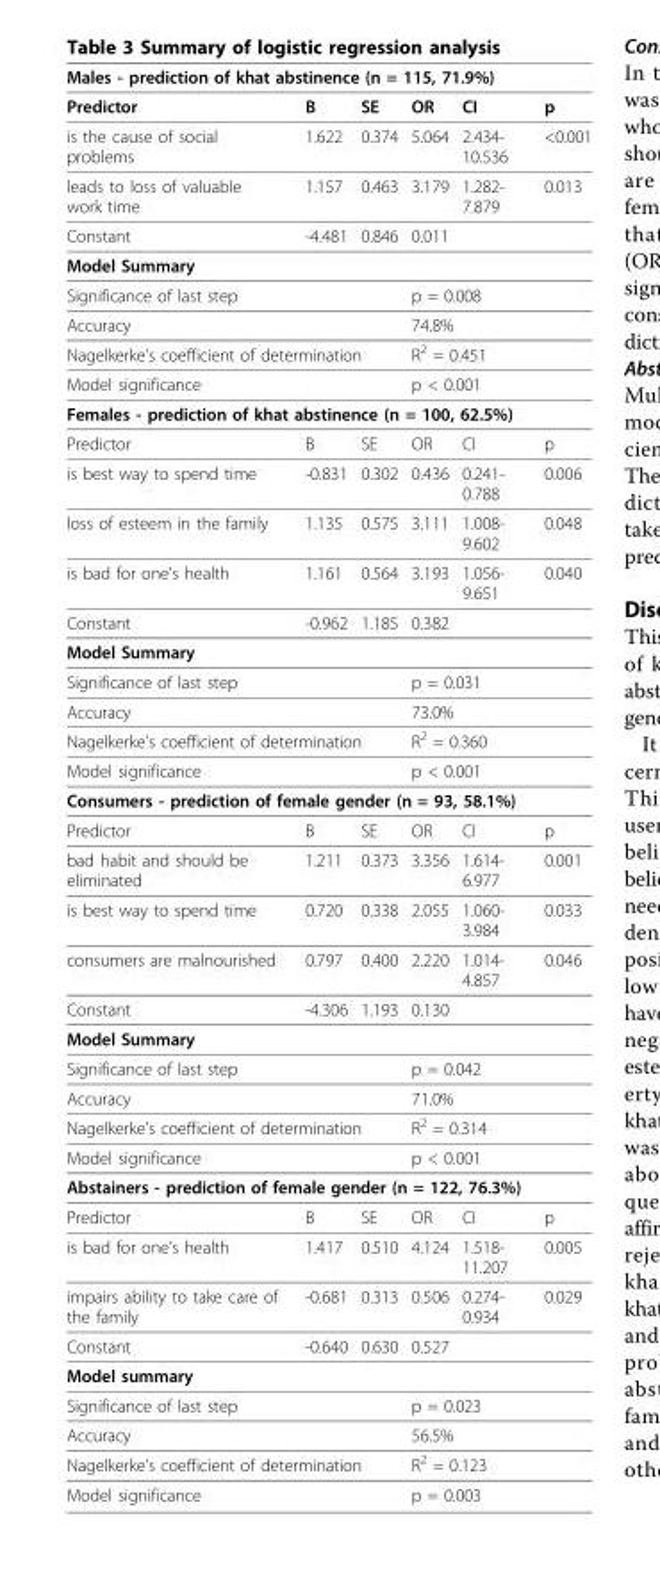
<table><thead><tr><td colspan="6">Males - prediction of khat abstinence (n = 115, 71.9%)</td></tr><tr><td>Predictor</td><td>B</td><td>SE</td><td>OR</td><td>CI</td><td>p</td></tr></thead><tbody><tr><td>is the cause of social problems</td><td>1.622</td><td>0.374</td><td>5.064</td><td>2.434- 10.536</td><td>&lt;0.001</td></tr><tr><td>leads to loss of valuable work time</td><td>1.157</td><td>0.463</td><td>3.179</td><td>1.282- 7.879</td><td>0.013</td></tr><tr><td>Constant</td><td>-4.481</td><td>0.846</td><td>0.011</td><td></td><td></td></tr><tr><td colspan="6">Model Summary</td></tr><tr><td colspan="3">Significance of last step</td><td colspan="3">p = 0.008</td></tr><tr><td colspan="3">Accuracy</td><td colspan="3">74.8%</td></tr><tr><td colspan="3">Nagelkerke’s coefficient of determination</td><td colspan="3">R<sup>2</sup> = 0.451</td></tr><tr><td colspan="3">Model significance</td><td colspan="3">p &lt; 0.001</td></tr><tr><td colspan="6">Females - prediction of khat abstinence (n = 100, 62.5%)</td></tr><tr><td>Predictor</td><td>B</td><td>SE</td><td>OR</td><td>CI</td><td>p</td></tr><tr><td>is best way to spend time</td><td>-0.831</td><td>0.302</td><td>0.436</td><td>0.241- 0.788</td><td>0.006</td></tr><tr><td>loss of esteem in the family</td><td>1.135</td><td>0.575</td><td>3.111</td><td>1.008- 9.602</td><td>0.048</td></tr><tr><td>is bad for one’s health</td><td>1.161</td><td>0.564</td><td>3.193</td><td>1.056- 9.651</td><td>0.040</td></tr><tr><td>Constant</td><td>-0.962</td><td>1.185</td><td>0.382</td><td></td><td></td></tr><tr><td colspan="6">Model Summary</td></tr><tr><td colspan="3">Significance of last step</td><td colspan="3">p = 0.031</td></tr><tr><td colspan="3">Accuracy</td><td colspan="3">73.0%</td></tr><tr><td colspan="3">Nagelkerke’s coefficient of determination</td><td colspan="3">R<sup>2</sup> = 0.360</td></tr><tr><td colspan="3">Model significance</td><td colspan="3">p &lt; 0.001</td></tr><tr><td colspan="6">Consumers - prediction of female gender (n = 93, 58.1%)</td></tr><tr><td>Predictor</td><td>B</td><td>SE</td><td>OR</td><td>CI</td><td>p</td></tr><tr><td>bad habit and should be eliminated</td><td>1.211</td><td>0.373</td><td>3.356</td><td>1.614- 6.977</td><td>0.001</td></tr><tr><td>is best way to spend time</td><td>0.720</td><td>0.338</td><td>2.055</td><td>1.060- 3.984</td><td>0.033</td></tr><tr><td>consumers are malnourished</td><td>0.797</td><td>0.400</td><td>2.220</td><td>1.014- 4.857</td><td>0.046</td></tr><tr><td>Constant</td><td>-4.306</td><td>1.193</td><td>0.130</td><td></td><td></td></tr><tr><td colspan="6">Model Summary</td></tr><tr><td colspan="3">Significance of last step</td><td colspan="3">p = 0.042</td></tr><tr><td colspan="3">Accuracy</td><td colspan="3">71.0%</td></tr><tr><td colspan="3">Nagelkerke’s coefficient of determination</td><td colspan="3">R<sup>2</sup> = 0.314</td></tr><tr><td colspan="3">Model significance</td><td colspan="3">p &lt; 0.001</td></tr><tr><td colspan="6">Abstainers - prediction of female gender (n = 122, 76.3%)</td></tr><tr><td>Predictor</td><td>B</td><td>SE</td><td>OR</td><td>CI</td><td>p</td></tr><tr><td>is bad for one’s health</td><td>1.417</td><td>0.510</td><td>4.124</td><td>1.518- 11.207</td><td>0.005</td></tr><tr><td>impairs ability to take care of the family</td><td>-0.681</td><td>0.313</td><td>0.506</td><td>0.274- 0.934</td><td>0.029</td></tr><tr><td>Constant</td><td>-0.640</td><td>0.630</td><td>0.527</td><td></td><td></td></tr><tr><td colspan="6">Model summary</td></tr><tr><td colspan="3">Significance of last step</td><td colspan="3">p = 0.023</td></tr><tr><td colspan="3">Accuracy</td><td colspan="3">56.5%</td></tr><tr><td colspan="3">Nagelkerke’s coefficient of determination</td><td colspan="3">R<sup>2</sup> = 0.123</td></tr><tr><td colspan="3">Model significance</td><td colspan="3">p = 0.003</td></tr></tbody></table>